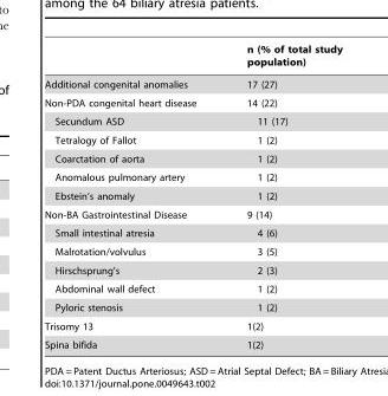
<table><thead><tr><td></td><td>n (% of total study population)</td></tr></thead><tbody><tr><td>Additional congenital anomalies</td><td>17 (27)</td></tr><tr><td>Non-PDA congenital heart disease</td><td>14 (22)</td></tr><tr><td>Secundum ASD</td><td>11 (17)</td></tr><tr><td>Tetralogy of Fallot</td><td>1 (2)</td></tr><tr><td>Coarctation of aorta</td><td>1 (2)</td></tr><tr><td>Anomalous pulmonary artery</td><td>1 (2)</td></tr><tr><td>Ebstein’s anomaly</td><td>1 (2)</td></tr><tr><td>Non-BA Gastrointestinal Disease</td><td>9 (14)</td></tr><tr><td>Small intestinal atresia</td><td>4 (6)</td></tr><tr><td>Malrotation/volvulus</td><td>3 (5)</td></tr><tr><td>Hirschsprung’s</td><td>2 (3)</td></tr><tr><td>Abdominal wall defect</td><td>1 (2)</td></tr><tr><td>Pyloric stenosis</td><td>1 (2)</td></tr><tr><td>Trisomy 13</td><td>1(2)</td></tr><tr><td>Spina bifida</td><td>1(2)</td></tr></tbody></table>